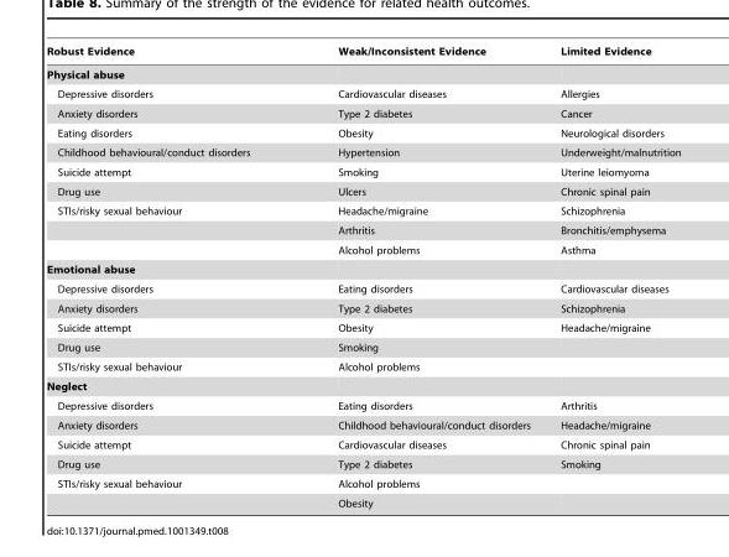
<table><thead><tr><td>Robust Evidence</td><td>Weak/Inconsistent Evidence</td><td>Limited Evidence</td></tr></thead><tbody><tr><td colspan="3">Physical abuse</td></tr><tr><td>Depressive disorders</td><td>Cardiovascular diseases</td><td>Allergies</td></tr><tr><td>Anxiety disorders</td><td>Type 2 diabetes</td><td>Cancer</td></tr><tr><td>Eating disorders</td><td>Obesity</td><td>Neurological disorders</td></tr><tr><td>Childhood behavioural/conduct disorders</td><td>Hypertension</td><td>Underweight/malnutrition</td></tr><tr><td>Suicide attempt</td><td>Smoking</td><td>Uterine leiomyoma</td></tr><tr><td>Drug use</td><td>Ulcers</td><td>Chronic spinal pain</td></tr><tr><td rowspan="3">STIs/risky sexual behaviour</td><td>Headache/migraine</td><td>Schizophrenia</td></tr><tr><td>Arthritis</td><td>Bronchitis/emphysema</td></tr><tr><td>Alcohol problems</td><td>Asthma</td></tr><tr><td colspan="3">Emotional abuse</td></tr><tr><td>Depressive disorders</td><td>Eating disorders</td><td>Cardiovascular diseases</td></tr><tr><td>Anxiety disorders</td><td>Type 2 diabetes</td><td>Schizophrenia</td></tr><tr><td>Suicide attempt</td><td>Obesity</td><td>Headache/migraine</td></tr><tr><td>Drug use</td><td>Smoking</td><td></td></tr><tr><td>STIs/risky sexual behaviour</td><td>Alcohol problems</td><td></td></tr><tr><td colspan="3">Neglect</td></tr><tr><td>Depressive disorders</td><td>Eating disorders</td><td>Arthritis</td></tr><tr><td>Anxiety disorders</td><td>Childhood behavioural/conduct disorders</td><td>Headache/migraine</td></tr><tr><td>Suicide attempt</td><td>Cardiovascular diseases</td><td>Chronic spinal pain</td></tr><tr><td>Drug use</td><td>Type 2 diabetes</td><td>Smoking</td></tr><tr><td rowspan="2">STIs/risky sexual behaviour</td><td>Alcohol problems</td><td></td></tr><tr><td>Obesity</td><td></td></tr></tbody></table>